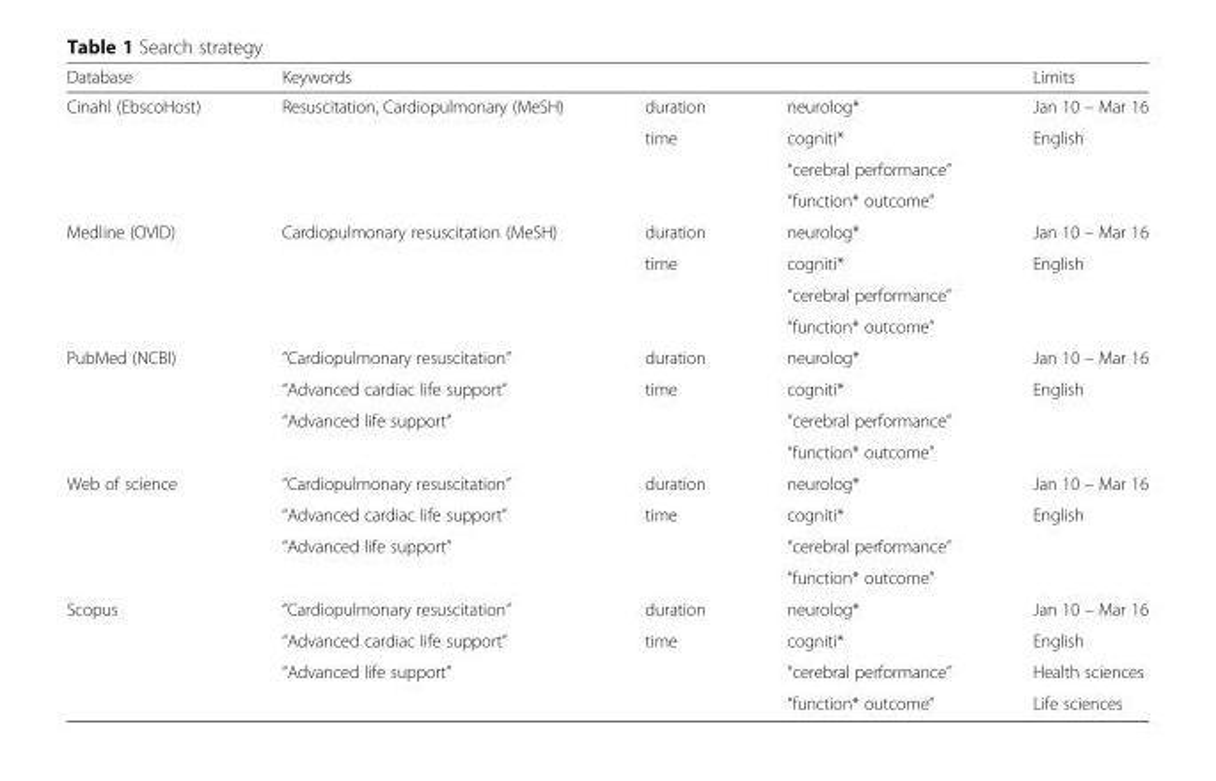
<table><thead><tr><td>Database</td><td>Keywords</td><td></td><td></td><td>Limits</td></tr></thead><tbody><tr><td rowspan="4">Cinahl (EbscoHost)</td><td>Resuscitation, Cardiopulmonary (MeSH)</td><td>duration</td><td>neurolog*</td><td>Jan 10 – Mar 16</td></tr><tr><td></td><td>time</td><td>cogniti*</td><td>English</td></tr><tr><td></td><td></td><td>“cerebral performance”</td><td></td></tr><tr><td></td><td></td><td>“function* outcome”</td><td></td></tr><tr><td rowspan="4">Medline (OVID)</td><td>Cardiopulmonary resuscitation (MeSH)</td><td>duration</td><td>neurolog*</td><td>Jan 10 – Mar 16</td></tr><tr><td></td><td>time</td><td>cogniti*</td><td>English</td></tr><tr><td></td><td></td><td>“cerebral performance”</td><td></td></tr><tr><td></td><td></td><td>“function* outcome”</td><td></td></tr><tr><td rowspan="4">PubMed (NCBI)</td><td>“Cardiopulmonary resuscitation”</td><td>duration</td><td>neurolog*</td><td>Jan 10 – Mar 16</td></tr><tr><td>“Advanced cardiac life support”</td><td>time</td><td>cogniti*</td><td>English</td></tr><tr><td>“Advanced life support”</td><td></td><td>“cerebral performance”</td><td></td></tr><tr><td></td><td></td><td>“function* outcome”</td><td></td></tr><tr><td rowspan="4">Web of science</td><td>“Cardiopulmonary resuscitation”</td><td>duration</td><td>neurolog*</td><td>Jan 10 – Mar 16</td></tr><tr><td>“Advanced cardiac life support”</td><td>time</td><td>cogniti*</td><td>English</td></tr><tr><td>“Advanced life support”</td><td></td><td>“cerebral performance”</td><td></td></tr><tr><td></td><td></td><td>“function* outcome”</td><td></td></tr><tr><td rowspan="4">Scopus</td><td>“Cardiopulmonary resuscitation”</td><td>duration</td><td>neurolog*</td><td>Jan 10 – Mar 16</td></tr><tr><td>“Advanced cardiac life support”</td><td>time</td><td>cogniti*</td><td>English</td></tr><tr><td>“Advanced life support”</td><td></td><td>“cerebral performance”</td><td>Health sciences</td></tr><tr><td></td><td></td><td>“function* outcome”</td><td>Life sciences</td></tr></tbody></table>